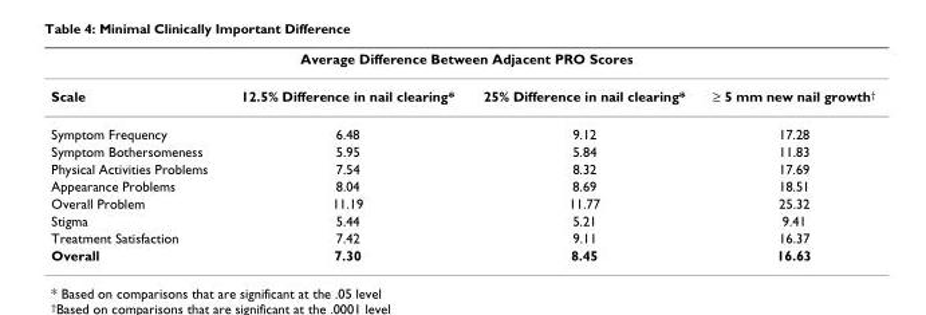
<table><thead><tr><td colspan="4">Average Difference Between Adjacent PRO Scores</td></tr><tr><td>Scale</td><td>12.5% Difference in nail clearing*</td><td>25% Difference in nail clearing*</td><td>≥ 5 mm new nail growth<sup>†</sup></td></tr></thead><tbody><tr><td>Symptom Frequency</td><td>6.48</td><td>9.12</td><td>17.28</td></tr><tr><td>Symptom Bothersomeness</td><td>5.95</td><td>5.84</td><td>11.83</td></tr><tr><td>Physical Activities Problems</td><td>7.54</td><td>8.32</td><td>17.69</td></tr><tr><td>Appearance Problems</td><td>8.04</td><td>8.69</td><td>18.51</td></tr><tr><td>Overall Problem</td><td>11.19</td><td>11.77</td><td>25.32</td></tr><tr><td>Stigma</td><td>5.44</td><td>5.21</td><td>9.41</td></tr><tr><td>Treatment Satisfaction</td><td>7.42</td><td>9.11</td><td>16.37</td></tr><tr><td>Overall</td><td>7.30</td><td>8.45</td><td>16.63</td></tr></tbody></table>